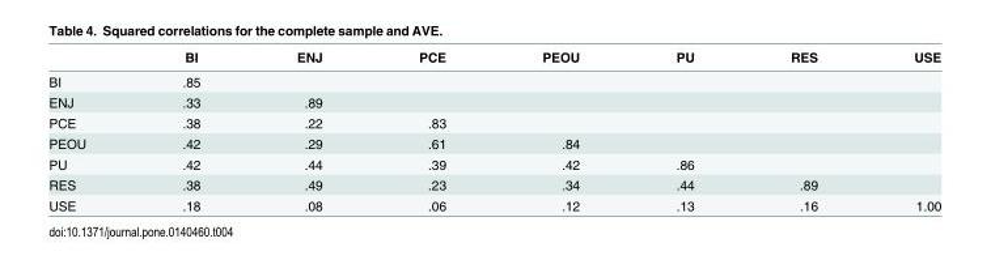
<table><thead><tr><td></td><td>BI</td><td>ENJ</td><td>PCE</td><td>PEOU</td><td>PU</td><td>RES</td><td>USE</td></tr></thead><tbody><tr><td>BI</td><td>.85</td><td></td><td></td><td></td><td></td><td></td><td></td></tr><tr><td>ENJ</td><td>.33</td><td>.89</td><td></td><td></td><td></td><td></td><td></td></tr><tr><td>PCE</td><td>.38</td><td>.22</td><td>.83</td><td></td><td></td><td></td><td></td></tr><tr><td>PEOU</td><td>.42</td><td>.29</td><td>.61</td><td>.84</td><td></td><td></td><td></td></tr><tr><td>PU</td><td>.42</td><td>.44</td><td>.39</td><td>.42</td><td>.86</td><td></td><td></td></tr><tr><td>RES</td><td>.38</td><td>.49</td><td>.23</td><td>.34</td><td>.44</td><td>.89</td><td></td></tr><tr><td>USE</td><td>.18</td><td>.08</td><td>.06</td><td>.12</td><td>.13</td><td>.16</td><td>1.00</td></tr></tbody></table>